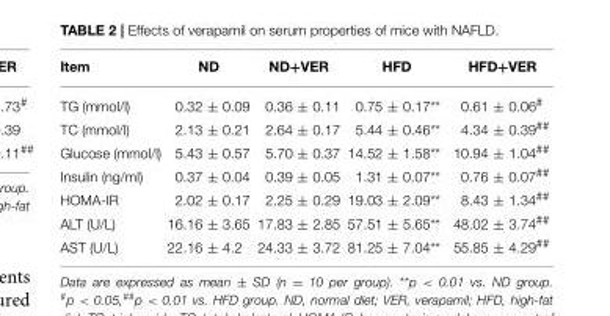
<table><thead><tr><td>Item</td><td>ND</td><td>ND+VER</td><td>HFD</td><td>HFD+VER</td></tr></thead><tbody><tr><td>TG (mmol/l)</td><td>0.32 ± 0.09</td><td>0.36 ± 0.11</td><td>0.75 ± 0.17**</td><td>0.61 ± 0.06<sup>#</sup></td></tr><tr><td>TC (mmol/l)</td><td>2.13 ± 0.21</td><td>2.64 ± 0.17</td><td>5.44 ± 0.46**</td><td>4.34 ± 0.39<sup>##</sup></td></tr><tr><td>Glucose (mmol/l)</td><td>5.43 ± 0.57</td><td>5.70 ± 0.37</td><td>14.52 ± 1.58**</td><td>10.94 ± 1.04<sup>##</sup></td></tr><tr><td>Insulin (ng/ml)</td><td>0.37 ± 0.04</td><td>0.39 ± 0.05</td><td>1.31 ± 0.07**</td><td>0.76 ± 0.07<sup>##</sup></td></tr><tr><td>HOMA-IR</td><td>2.02 ± 0.17</td><td>2.25 ± 0.29</td><td>19.03 ± 2.09**</td><td>8.43 ± 1.34<sup>##</sup></td></tr><tr><td>ALT (U/L)</td><td>16.16 ± 3.65</td><td>17.83 ± 2.85</td><td>57.51 ± 5.65**</td><td>48.02 ± 3.74<sup>##</sup></td></tr><tr><td>AST (U/L)</td><td>22.16 ± 4.2</td><td>24.33 ± 3.72</td><td>81.25 ± 7.04**</td><td>55.85 ± 4.29<sup>##</sup></td></tr></tbody></table>